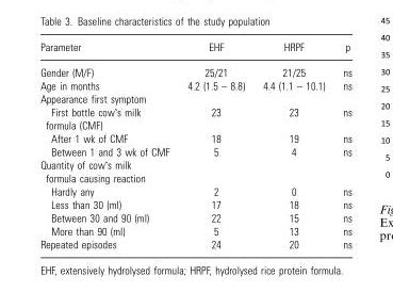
<table><thead><tr><td>Parameter</td><td>EHF</td><td>HRPF</td><td>p</td></tr></thead><tbody><tr><td>Gender (M/F)</td><td>25/21</td><td>21/25</td><td>ns</td></tr><tr><td>Age in months</td><td>4.2 (1.5 – 8.8)</td><td>4.4 (1.1 – 10.1)</td><td>ns</td></tr><tr><td colspan="4">Appearance first symptom</td></tr><tr><td>First bottle cow’s milk formula (CMF)</td><td>23</td><td>23</td><td>ns</td></tr><tr><td>After 1 wk of CMF</td><td>18</td><td>19</td><td>ns</td></tr><tr><td>Between 1 and 3 wk of CMF</td><td>5</td><td>4</td><td>ns</td></tr><tr><td colspan="4">Quantity of cow’s milk formula causing reaction</td></tr><tr><td>Hardly any</td><td>2</td><td>0</td><td>ns</td></tr><tr><td>Less than 30 (ml)</td><td>17</td><td>18</td><td>ns</td></tr><tr><td>Between 30 and 90 (ml)</td><td>22</td><td>15</td><td>ns</td></tr><tr><td>More than 90 (ml)</td><td>5</td><td>13</td><td>ns</td></tr><tr><td>Repeated episodes</td><td>24</td><td>20</td><td>ns</td></tr></tbody></table>